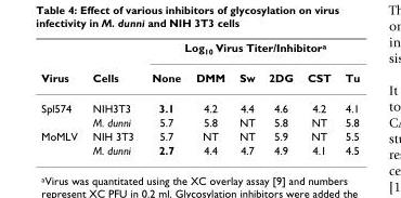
<table><thead><tr><td rowspan="2">Virus</td><td rowspan="2">Cells</td><td colspan="6">Log<sub>10</sub> Virus Titer/Inhibitor<sup>a</sup></td></tr><tr><td>None</td><td>DMM</td><td>Sw</td><td>2DG</td><td>CST</td><td>Tu</td></tr></thead><tbody><tr><td rowspan="2">Spl574</td><td>NIH3T3</td><td>3.1</td><td>4.2</td><td>4.4</td><td>4.6</td><td>4.2</td><td>4.1</td></tr><tr><td>M. dunni</td><td>5.7</td><td>5.8</td><td>NT</td><td>5.8</td><td>NT</td><td>5.8</td></tr><tr><td rowspan="2">MoMLV</td><td>NIH 3T3</td><td>5.7</td><td>NT</td><td>NT</td><td>5.9</td><td>NT</td><td>5.5</td></tr><tr><td>M. dunni</td><td>2.7</td><td>4.4</td><td>4.7</td><td>4.9</td><td>4.1</td><td>4.5</td></tr></tbody></table>